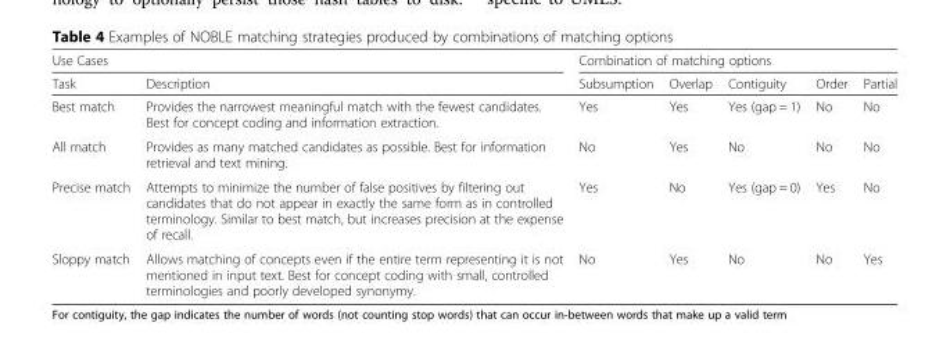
<table><thead><tr><td colspan="2">Use Cases</td><td colspan="5">Combination of matching options</td></tr><tr><td>Task</td><td>Description</td><td>Subsumption</td><td>Overlap</td><td>Contiguity</td><td>Order</td><td>Partial</td></tr></thead><tbody><tr><td>Best match</td><td>Provides the narrowest meaningful match with the fewest candidates. Best for concept coding and information extraction.</td><td>Yes</td><td>Yes</td><td>Yes (gap = 1)</td><td>No</td><td>No</td></tr><tr><td>All match</td><td>Provides as many matched candidates as possible. Best for information retrieval and text mining.</td><td>No</td><td>Yes</td><td>No</td><td>No</td><td>No</td></tr><tr><td>Precise match</td><td>Attempts to minimize the number of false positives by filtering out candidates that do not appear in exactly the same form as in controlled terminology. Similar to best match, but increases precision at the expense of recall.</td><td>Yes</td><td>No</td><td>Yes (gap = 0)</td><td>Yes</td><td>No</td></tr><tr><td>Sloppy match</td><td>Allows matching of concepts even if the entire term representing it is not mentioned in input text. Best for concept coding with small, controlled terminologies and poorly developed synonymy.</td><td>No</td><td>Yes</td><td>No</td><td>No</td><td>Yes</td></tr></tbody></table>